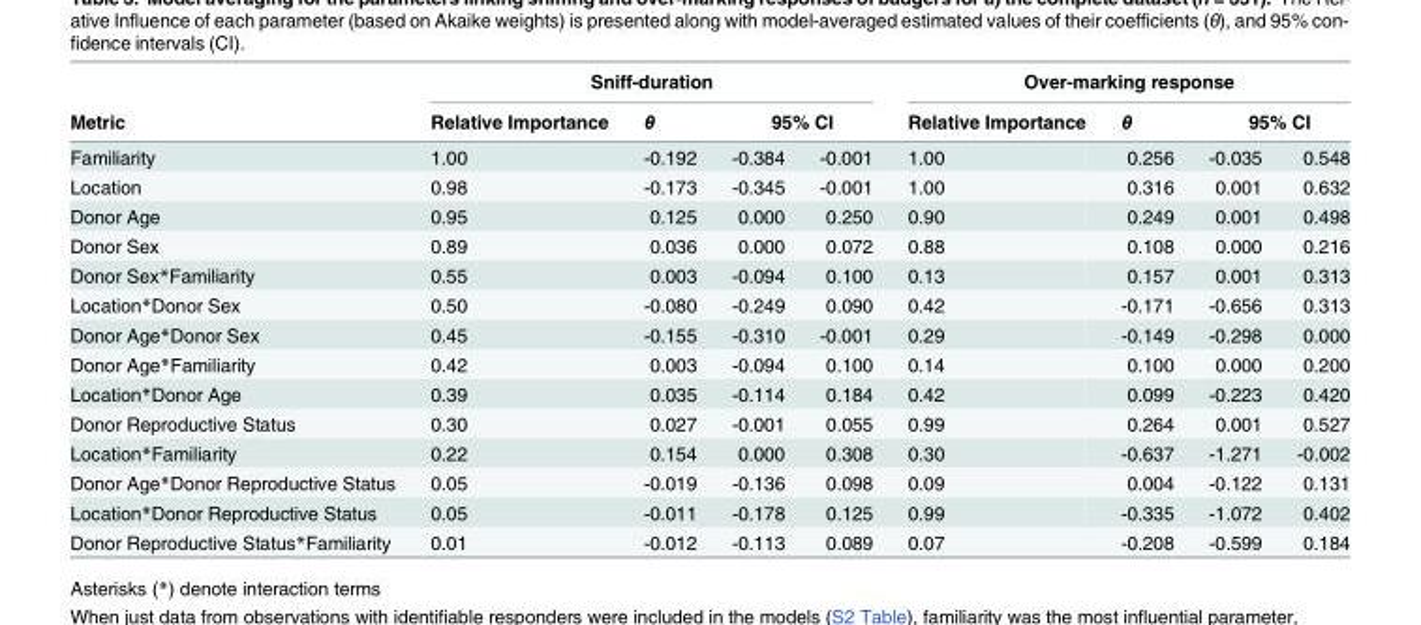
<table><thead><tr><td rowspan="3">Metric Familiarity</td><td colspan="4">Sniff-duration</td><td colspan="4">Over-marking response</td></tr><tr><td rowspan="2">Relative Importance 1.00</td><td rowspan="2">θ -0.192</td><td colspan="2">95% CI</td><td rowspan="2">Relative Importance 1.00</td><td rowspan="2">θ 0.256</td><td colspan="2">95% CI</td></tr><tr><td>-0.384</td><td>-0.001</td><td>-0.035</td><td>0.548</td></tr></thead><tbody><tr><td>Location</td><td>0.98</td><td>-0.173</td><td>-0.345</td><td>-0.001</td><td>1.00</td><td>0.316</td><td>0.001</td><td>0.632</td></tr><tr><td>Donor Age</td><td>0.95</td><td>0.125</td><td>0.000</td><td>0.250</td><td>0.90</td><td>0.249</td><td>0.001</td><td>0.498</td></tr><tr><td>Donor Sex</td><td>0.89</td><td>0.036</td><td>0.000</td><td>0.072</td><td>0.88</td><td>0.108</td><td>0.000</td><td>0.216</td></tr><tr><td>Donor Sex*Familiarity</td><td>0.55</td><td>0.003</td><td>-0.094</td><td>0.100</td><td>0.13</td><td>0.157</td><td>0.001</td><td>0.313</td></tr><tr><td>Location*Donor Sex</td><td>0.50</td><td>-0.080</td><td>-0.249</td><td>0.090</td><td>0.42</td><td>-0.171</td><td>-0.656</td><td>0.313</td></tr><tr><td>Donor Age*Donor Sex</td><td>0.45</td><td>-0.155</td><td>-0.310</td><td>-0.001</td><td>0.29</td><td>-0.149</td><td>-0.298</td><td>0.000</td></tr><tr><td>Donor Age*Familiarity</td><td>0.42</td><td>0.003</td><td>-0.094</td><td>0.100</td><td>0.14</td><td>0.100</td><td>0.000</td><td>0.200</td></tr><tr><td>Location*Donor Age</td><td>0.39</td><td>0.035</td><td>-0.114</td><td>0.184</td><td>0.42</td><td>0.099</td><td>-0.223</td><td>0.420</td></tr><tr><td>Donor Reproductive Status</td><td>0.30</td><td>0.027</td><td>-0.001</td><td>0.055</td><td>0.99</td><td>0.264</td><td>0.001</td><td>0.527</td></tr><tr><td>Location*Familiarity</td><td>0.22</td><td>0.154</td><td>0.000</td><td>0.308</td><td>0.30</td><td>-0.637</td><td>-1.271</td><td>-0.002</td></tr><tr><td>Donor Age*Donor Reproductive Status</td><td>0.05</td><td>-0.019</td><td>-0.136</td><td>0.098</td><td>0.09</td><td>0.004</td><td>-0.122</td><td>0.131</td></tr><tr><td>Location*Donor Reproductive Status</td><td>0.05</td><td>-0.011</td><td>-0.178</td><td>0.125</td><td>0.99</td><td>-0.335</td><td>-1.072</td><td>0.402</td></tr><tr><td>Donor Reproductive Status*Familiarity</td><td>0.01</td><td>-0.012</td><td>-0.113</td><td>0.089</td><td>0.07</td><td>-0.208</td><td>-0.599</td><td>0.184</td></tr></tbody></table>